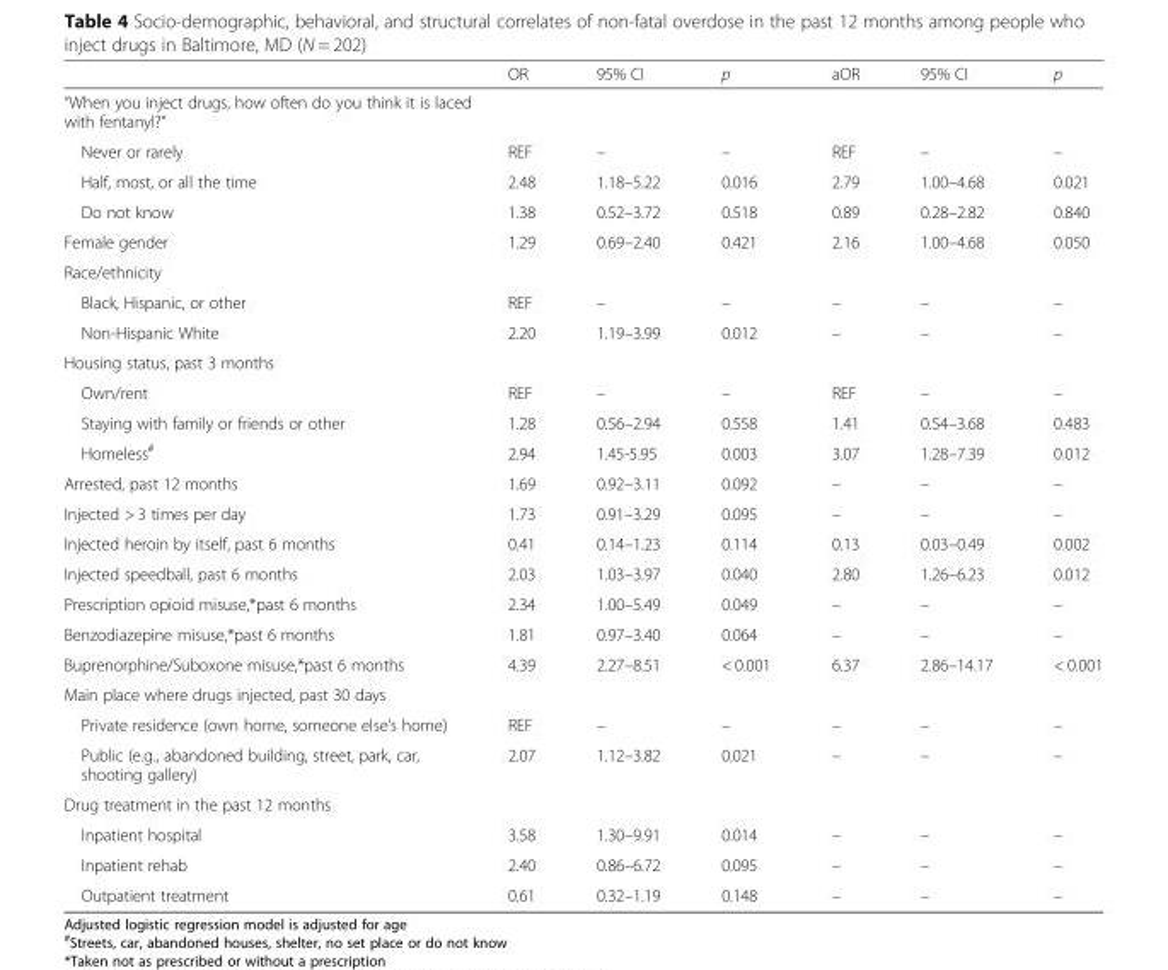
<table><thead><tr><td></td><td>OR</td><td>95% CI</td><td>p</td><td>aOR</td><td>95% CI</td><td>p</td></tr></thead><tbody><tr><td colspan="7">“When you inject drugs, how often do you think it is laced with fentanyl?”</td></tr><tr><td>Never or rarely</td><td>REF</td><td>–</td><td>–</td><td>REF</td><td>–</td><td>–</td></tr><tr><td>Half, most, or all the time</td><td>2.48</td><td>1.18–5.22</td><td>0.016</td><td>2.79</td><td>1.00–4.68</td><td>0.021</td></tr><tr><td>Do not know</td><td>1.38</td><td>0.52–3.72</td><td>0.518</td><td>0.89</td><td>0.28–2.82</td><td>0.840</td></tr><tr><td>Female gender</td><td>1.29</td><td>0.69–2.40</td><td>0.421</td><td>2.16</td><td>1.00–4.68</td><td>0.050</td></tr><tr><td colspan="7">Race/ethnicity</td></tr><tr><td>Black, Hispanic, or other</td><td>REF</td><td>–</td><td>–</td><td>–</td><td>–</td><td>–</td></tr><tr><td>Non-Hispanic White</td><td>2.20</td><td>1.19–3.99</td><td>0.012</td><td>–</td><td>–</td><td>–</td></tr><tr><td colspan="7">Housing status, past 3 months</td></tr><tr><td>Own/rent</td><td>REF</td><td>–</td><td>–</td><td>REF</td><td>–</td><td>–</td></tr><tr><td>Staying with family or friends or other</td><td>1.28</td><td>0.56–2.94</td><td>0.558</td><td>1.41</td><td>0.54–3.68</td><td>0.483</td></tr><tr><td>Homeless<sup>#</sup></td><td>2.94</td><td>1.45-5.95</td><td>0.003</td><td>3.07</td><td>1.28–7.39</td><td>0.012</td></tr><tr><td>Arrested, past 12 months</td><td>1.69</td><td>0.92–3.11</td><td>0.092</td><td>–</td><td>–</td><td>–</td></tr><tr><td>Injected &gt; 3 times per day</td><td>1.73</td><td>0.91–3.29</td><td>0.095</td><td>–</td><td>–</td><td>–</td></tr><tr><td>Injected heroin by itself, past 6 months</td><td>0.41</td><td>0.14–1.23</td><td>0.114</td><td>0.13</td><td>0.03–0.49</td><td>0.002</td></tr><tr><td>Injected speedball, past 6 months</td><td>2.03</td><td>1.03–3.97</td><td>0.040</td><td>2.80</td><td>1.26–6.23</td><td>0.012</td></tr><tr><td>Prescription opioid misuse,*past 6 months</td><td>2.34</td><td>1.00–5.49</td><td>0.049</td><td>–</td><td>–</td><td>–</td></tr><tr><td>Benzodiazepine misuse,*past 6 months</td><td>1.81</td><td>0.97–3.40</td><td>0.064</td><td>–</td><td>–</td><td>–</td></tr><tr><td>Buprenorphine/Suboxone misuse,*past 6 months</td><td>4.39</td><td>2.27–8.51</td><td>&lt; 0.001</td><td>6.37</td><td>2.86–14.17</td><td>&lt; 0.001</td></tr><tr><td colspan="7">Main place where drugs injected, past 30 days</td></tr><tr><td>Private residence (own home, someone else’s home)</td><td>REF</td><td>–</td><td>–</td><td>–</td><td>–</td><td>–</td></tr><tr><td>Public (e.g., abandoned building, street, park, car, shooting gallery)</td><td>2.07</td><td>1.12–3.82</td><td>0.021</td><td>–</td><td>–</td><td>–</td></tr><tr><td colspan="7">Drug treatment in the past 12 months</td></tr><tr><td>Inpatient hospital</td><td>3.58</td><td>1.30–9.91</td><td>0.014</td><td>–</td><td>–</td><td>–</td></tr><tr><td>Inpatient rehab</td><td>2.40</td><td>0.86–6.72</td><td>0.095</td><td>–</td><td>–</td><td>–</td></tr><tr><td>Outpatient treatment</td><td>0.61</td><td>0.32–1.19</td><td>0.148</td><td>–</td><td>–</td><td>–</td></tr></tbody></table>